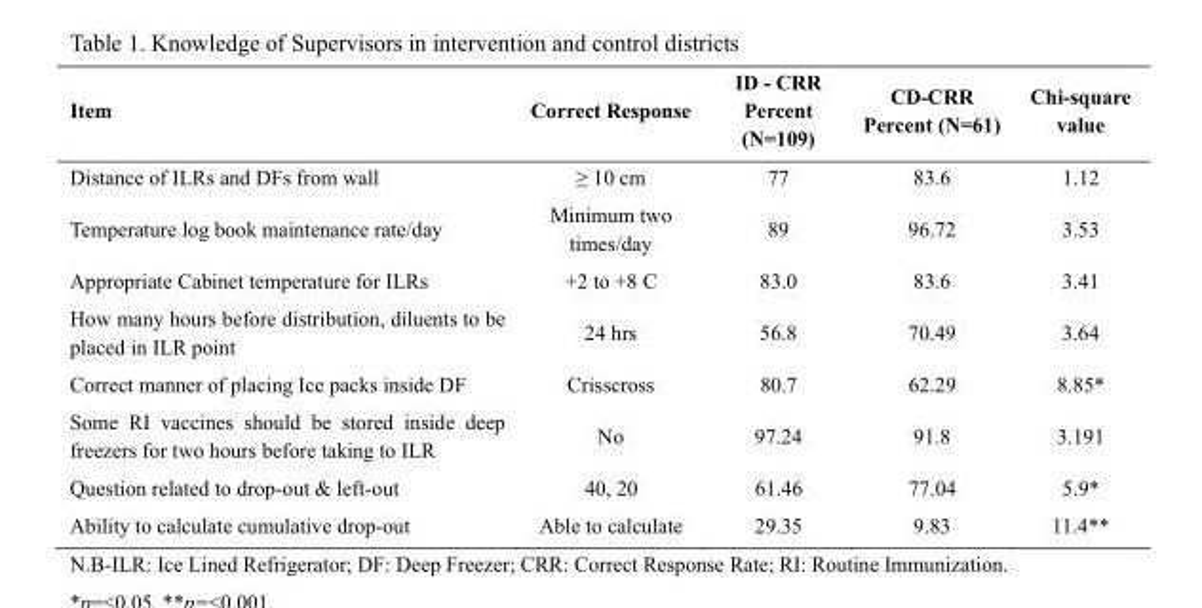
<table><thead><tr><td>Item</td><td>Correct Response</td><td>ID - CRR Percent (N=109)</td><td>CD-CRR Percent (N=61)</td><td>Chi-square value</td></tr></thead><tbody><tr><td>Distance of ILRs and DFs from wall</td><td>≥ 10 cm</td><td>77</td><td>83.6</td><td>1.12</td></tr><tr><td>Temperature log book maintenance rate/day</td><td>Minimum two times/day</td><td>89</td><td>96.72</td><td>3.53</td></tr><tr><td>Appropriate Cabinet temperature for ILRs</td><td>+2 to +8 C</td><td>83.0</td><td>83.6</td><td>3.41</td></tr><tr><td>How many hours before distribution, diluents to be placed in ILR point</td><td>24 hrs</td><td>56.8</td><td>70.49</td><td>3.64</td></tr><tr><td>Correct manner of placing Ice packs inside DF</td><td>Crisscross</td><td>80.7</td><td>62.29</td><td>8.85*</td></tr><tr><td>Some RI vaccines should be stored inside deep freezers for two hours before taking to ILR</td><td>No</td><td>97.24</td><td>91.8</td><td>3.191</td></tr><tr><td>Question related to drop-out &amp; left-out</td><td>40, 20</td><td>61.46</td><td>77.04</td><td>5.9*</td></tr><tr><td>Ability to calculate cumulative drop-out</td><td>Able to calculate</td><td>29.35</td><td>9.83</td><td>11.4**</td></tr></tbody></table>